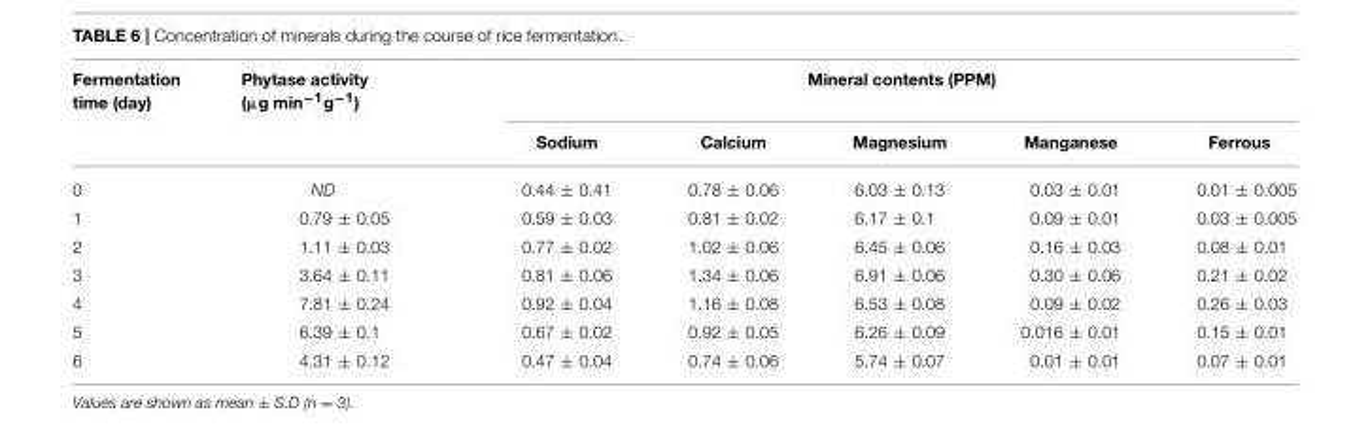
<table><thead><tr><td rowspan="2">Fermentation time (day)</td><td rowspan="2">Phytase activity (µg min<sup>−1</sup>g<sup>−1</sup>)</td><td colspan="5">Mineral contents (PPM)</td></tr><tr><td>Sodium</td><td>Calcium</td><td>Magnesium</td><td>Manganese</td><td>Ferrous</td></tr></thead><tbody><tr><td>0</td><td>ND</td><td>0.44 ± 0.41</td><td>0.78 ± 0.06</td><td>6.03 ± 0.13</td><td>0.03 ± 0.01</td><td>0.01 ± 0.005</td></tr><tr><td>1</td><td>0.79 ± 0.05</td><td>0.59 ± 0.03</td><td>0.81 ± 0.02</td><td>6.17 ± 0.1</td><td>0.09 ± 0.01</td><td>0.03 ± 0.005</td></tr><tr><td>2</td><td>1.11 ± 0.03</td><td>0.77 ± 0.02</td><td>1.02 ± 0.06</td><td>6.45 ± 0.06</td><td>0.16 ± 0.03</td><td>0.08 ± 0.01</td></tr><tr><td>3</td><td>3.64 ± 0.11</td><td>0.81 ± 0.06</td><td>1.34 ± 0.06</td><td>6.91 ± 0.06</td><td>0.30 ± 0.06</td><td>0.21 ± 0.02</td></tr><tr><td>4</td><td>7.81 ± 0.24</td><td>0.92 ± 0.04</td><td>1.16 ± 0.08</td><td>6.53 ± 0.08</td><td>0.09 ± 0.02</td><td>0.26 ± 0.03</td></tr><tr><td>5</td><td>6.39 ± 0.1</td><td>0.67 ± 0.02</td><td>0.92 ± 0.05</td><td>6.26 ± 0.09</td><td>0.016 ± 0.01</td><td>0.15 ± 0.01</td></tr><tr><td>6</td><td>4.31 ± 0.12</td><td>0.47 ± 0.04</td><td>0.74 ± 0.06</td><td>5.74 ± 0.07</td><td>0.01 ± 0.01</td><td>0.07 ± 0.01</td></tr></tbody></table>